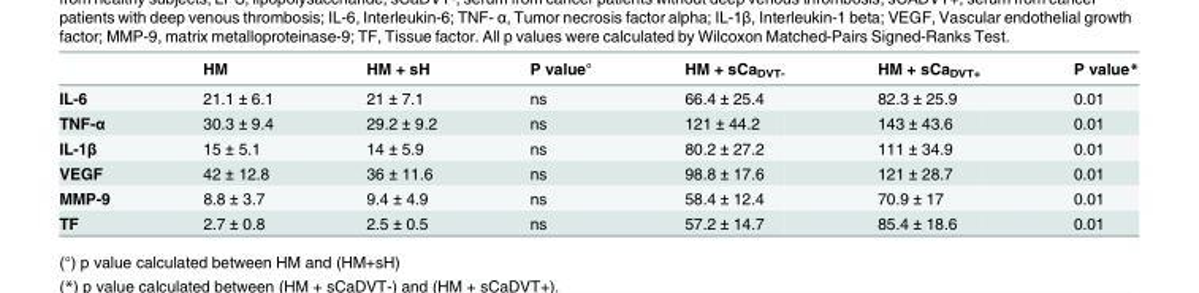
<table><thead><tr><td></td><td>HM</td><td>HM + sH</td><td>P value°</td><td>HM + sCa<sub>DVT-</sub></td><td>HM + sCa<sub>DVT+</sub></td><td>P value*</td></tr></thead><tbody><tr><td>IL-6</td><td>21.1 ± 6.1</td><td>21 ± 7.1</td><td>ns</td><td>66.4 ± 25.4</td><td>82.3 ± 25.9</td><td>0.01</td></tr><tr><td>TNF-α</td><td>30.3 ± 9.4</td><td>29.2 ± 9.2</td><td>ns</td><td>121 ± 44.2</td><td>143 ± 43.6</td><td>0.01</td></tr><tr><td>IL-1β</td><td>15 ± 5.1</td><td>14 ± 5.9</td><td>ns</td><td>80.2 ± 27.2</td><td>111 ± 34.9</td><td>0.01</td></tr><tr><td>VEGF</td><td>42 ± 12.8</td><td>36 ± 11.6</td><td>ns</td><td>98.8 ± 17.6</td><td>121 ± 28.7</td><td>0.01</td></tr><tr><td>MMP-9</td><td>8.8 ± 3.7</td><td>9.4 ± 4.9</td><td>ns</td><td>58.4 ± 12.4</td><td>70.9 ± 17</td><td>0.01</td></tr><tr><td>TF</td><td>2.7 ± 0.8</td><td>2.5 ± 0.5</td><td>ns</td><td>57.2 ± 14.7</td><td>85.4 ± 18.6</td><td>0.01</td></tr></tbody></table>